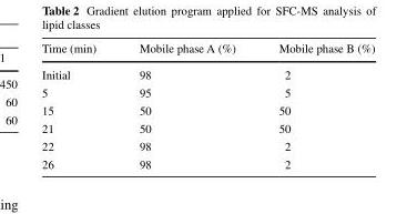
<table><thead><tr><td>Time (min)</td><td>Mobile phase A (%)</td><td>Mobile phase B (%)</td></tr></thead><tbody><tr><td>Initial</td><td>98</td><td>2</td></tr><tr><td>5</td><td>95</td><td>5</td></tr><tr><td>15</td><td>50</td><td>50</td></tr><tr><td>21</td><td>50</td><td>50</td></tr><tr><td>22</td><td>98</td><td>2</td></tr><tr><td>26</td><td>98</td><td>2</td></tr></tbody></table>